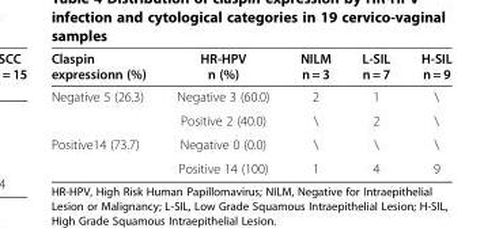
<table><thead><tr><td>Claspin expressionn (%)</td><td>HR-HPV n (%)</td><td>NILM n = 3</td><td>L-SIL n = 7</td><td>H-SIL n = 9</td></tr></thead><tbody><tr><td rowspan="2">Negative 5 (26.3)</td><td>Negative 3 (60.0)</td><td>2</td><td>1</td><td>\</td></tr><tr><td>Positive 2 (40.0)</td><td>\</td><td>2</td><td>\</td></tr><tr><td rowspan="2">Positive14 (73.7)</td><td>Negative 0 (0.0)</td><td>\</td><td>\</td><td>\</td></tr><tr><td>Positive 14 (100)</td><td>1</td><td>4</td><td>9</td></tr></tbody></table>